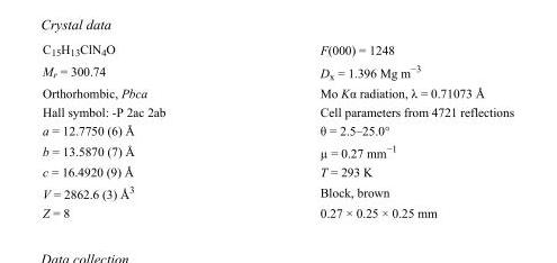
<table><tbody><tr><td>C<sub>15</sub>H<sub>13</sub>ClN<sub>4</sub>O</td><td>F(000) = 1248</td></tr><tr><td>M<sub>r</sub> = 300.74</td><td>D<sub>x</sub> = 1.396 Mg m<sup>−3</sup></td></tr><tr><td>Orthorhombic, Pbca</td><td>Mo Kα radiation, λ = 0.71073 Å</td></tr><tr><td>Hall symbol: -P 2ac 2ab</td><td>Cell parameters from 4721 reflections</td></tr><tr><td>a = 12.7750 (6) Å</td><td>θ = 2.5–25.0°</td></tr><tr><td>b = 13.5870 (7) Å</td><td>µ = 0.27 mm<sup>−1</sup></td></tr><tr><td>c = 16.4920 (9) Å</td><td>T = 293 K</td></tr><tr><td>V = 2862.6 (3) Å<sup>3</sup></td><td>Block, brown</td></tr><tr><td>Z = 8</td><td>0.27 × 0.25 × 0.25 mm</td></tr></tbody></table>